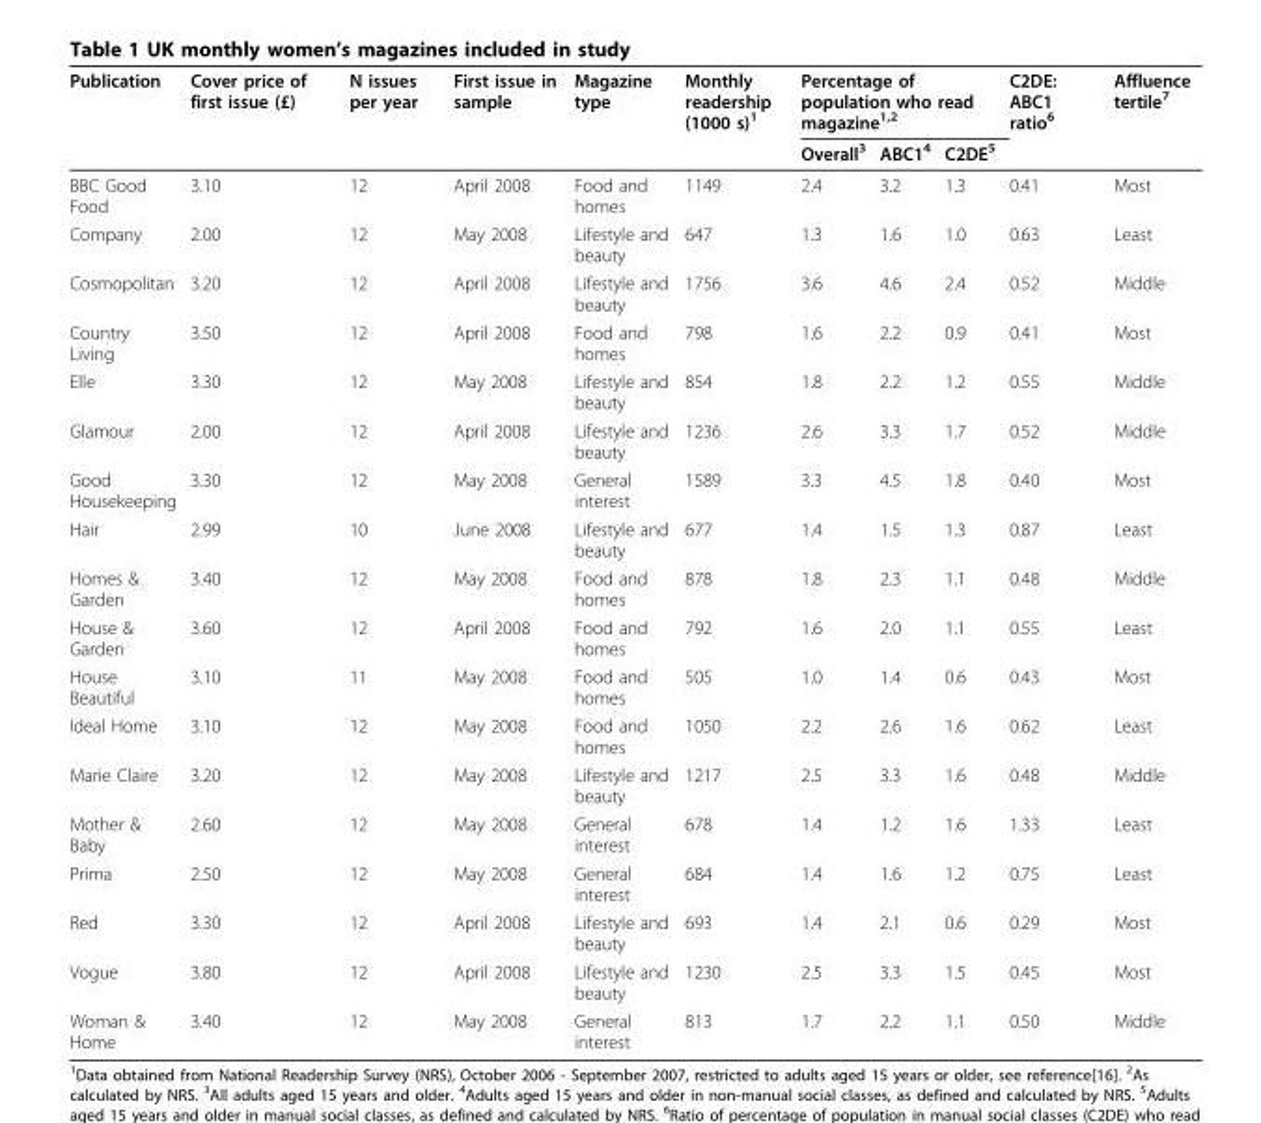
<table><thead><tr><td rowspan="2">Publication</td><td rowspan="2">Cover price of first issue (£)</td><td rowspan="2">N issues per year</td><td rowspan="2">First issue in sample</td><td rowspan="2">Magazine type</td><td rowspan="2">Monthly readership (1000 s)<sup>1</sup></td><td colspan="3">Percentage of population who read magazine<sup>1,2</sup></td><td rowspan="2">C2DE: ABC1 ratio<sup>6</sup></td><td rowspan="2">Affluence tertile<sup>7</sup></td></tr><tr><td>Overall<sup>3</sup></td><td>ABC1<sup>4</sup></td><td>C2DE<sup>5</sup></td></tr></thead><tbody><tr><td>BBC Good Food</td><td>3.10</td><td>12</td><td>April 2008</td><td>Food and homes</td><td>1149</td><td>2.4</td><td>3.2</td><td>1.3</td><td>0.41</td><td>Most</td></tr><tr><td>Company</td><td>2.00</td><td>12</td><td>May 2008</td><td>Lifestyle and beauty</td><td>647</td><td>1.3</td><td>1.6</td><td>1.0</td><td>0.63</td><td>Least</td></tr><tr><td>Cosmopolitan</td><td>3.20</td><td>12</td><td>April 2008</td><td>Lifestyle and beauty</td><td>1756</td><td>3.6</td><td>4.6</td><td>2.4</td><td>0.52</td><td>Middle</td></tr><tr><td>Country Living</td><td>3.50</td><td>12</td><td>April 2008</td><td>Food and homes</td><td>798</td><td>1.6</td><td>2.2</td><td>0.9</td><td>0.41</td><td>Most</td></tr><tr><td>Elle</td><td>3.30</td><td>12</td><td>May 2008</td><td>Lifestyle and beauty</td><td>854</td><td>1.8</td><td>2.2</td><td>1.2</td><td>0.55</td><td>Middle</td></tr><tr><td>Glamour</td><td>2.00</td><td>12</td><td>April 2008</td><td>Lifestyle and beauty</td><td>1236</td><td>2.6</td><td>3.3</td><td>1.7</td><td>0.52</td><td>Middle</td></tr><tr><td>Good Housekeeping</td><td>3.30</td><td>12</td><td>May 2008</td><td>General interest</td><td>1589</td><td>3.3</td><td>4.5</td><td>1.8</td><td>0.40</td><td>Most</td></tr><tr><td>Hair</td><td>2.99</td><td>10</td><td>June 2008</td><td>Lifestyle and beauty</td><td>677</td><td>1.4</td><td>1.5</td><td>1.3</td><td>0.87</td><td>Least</td></tr><tr><td>Homes &amp; Garden</td><td>3.40</td><td>12</td><td>May 2008</td><td>Food and homes</td><td>878</td><td>1.8</td><td>2.3</td><td>1.1</td><td>0.48</td><td>Middle</td></tr><tr><td>House &amp; Garden</td><td>3.60</td><td>12</td><td>April 2008</td><td>Food and homes</td><td>792</td><td>1.6</td><td>2.0</td><td>1.1</td><td>0.55</td><td>Least</td></tr><tr><td>House Beautiful</td><td>3.10</td><td>11</td><td>May 2008</td><td>Food and homes</td><td>505</td><td>1.0</td><td>1.4</td><td>0.6</td><td>0.43</td><td>Most</td></tr><tr><td>Ideal Home</td><td>3.10</td><td>12</td><td>May 2008</td><td>Food and homes</td><td>1050</td><td>2.2</td><td>2.6</td><td>1.6</td><td>0.62</td><td>Least</td></tr><tr><td>Marie Claire</td><td>3.20</td><td>12</td><td>May 2008</td><td>Lifestyle and beauty</td><td>1217</td><td>2.5</td><td>3.3</td><td>1.6</td><td>0.48</td><td>Middle</td></tr><tr><td>Mother &amp; Baby</td><td>2.60</td><td>12</td><td>May 2008</td><td>General interest</td><td>678</td><td>1.4</td><td>1.2</td><td>1.6</td><td>1.33</td><td>Least</td></tr><tr><td>Prima</td><td>2.50</td><td>12</td><td>May 2008</td><td>General interest</td><td>684</td><td>1.4</td><td>1.6</td><td>1.2</td><td>0.75</td><td>Least</td></tr><tr><td>Red</td><td>3.30</td><td>12</td><td>April 2008</td><td>Lifestyle and beauty</td><td>693</td><td>1.4</td><td>2.1</td><td>0.6</td><td>0.29</td><td>Most</td></tr><tr><td>Vogue</td><td>3.80</td><td>12</td><td>April 2008</td><td>Lifestyle and beauty</td><td>1230</td><td>2.5</td><td>3.3</td><td>1.5</td><td>0.45</td><td>Most</td></tr><tr><td>Woman &amp; Home</td><td>3.40</td><td>12</td><td>May 2008</td><td>General interest</td><td>813</td><td>1.7</td><td>2.2</td><td>1.1</td><td>0.50</td><td>Middle</td></tr></tbody></table>